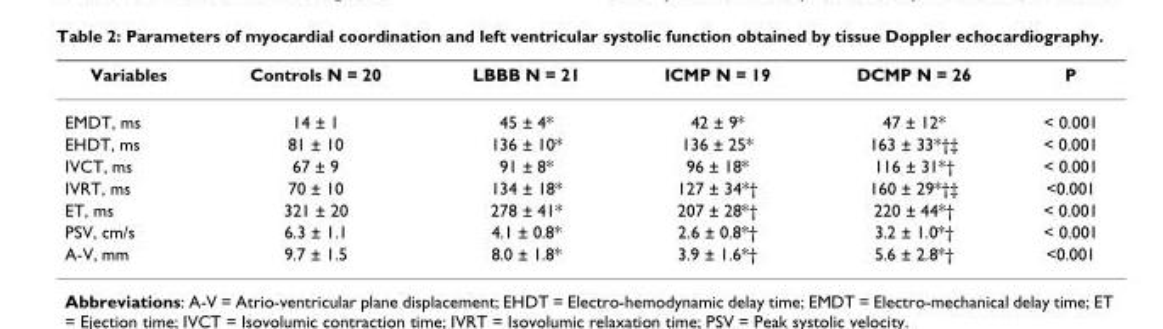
<table><thead><tr><td>Variables</td><td>Controls N = 20</td><td>LBBB N = 21</td><td>ICMP N = 19</td><td>DCMP N = 26</td><td>P</td></tr></thead><tbody><tr><td>EMDT, ms</td><td>14 ± 1</td><td>45 ± 4*</td><td>42 ± 9*</td><td>47 ± 12*</td><td>&lt; 0.001</td></tr><tr><td>EHDT, ms</td><td>81 ± 10</td><td>136 ± 10*</td><td>136 ± 25*</td><td>163 ± 33*†‡</td><td>&lt; 0.001</td></tr><tr><td>IVCT, ms</td><td>67 ± 9</td><td>91 ± 8*</td><td>96 ± 18*</td><td>116 ± 31*†</td><td>&lt; 0.001</td></tr><tr><td>IVRT, ms</td><td>70 ± 10</td><td>134 ± 18*</td><td>127 ± 34*†</td><td>160 ± 29*†‡</td><td>&lt;0.001</td></tr><tr><td>ET, ms</td><td>321 ± 20</td><td>278 ± 41*</td><td>207 ± 28*†</td><td>220 ± 44*†</td><td>&lt; 0.001</td></tr><tr><td>PSV, cm/s</td><td>6.3 ± 1.1</td><td>4.1 ± 0.8*</td><td>2.6 ± 0.8*†</td><td>3.2 ± 1.0*†</td><td>&lt; 0.001</td></tr><tr><td>A-V, mm</td><td>9.7 ± 1.5</td><td>8.0 ± 1.8*</td><td>3.9 ± 1.6*†</td><td>5.6 ± 2.8*†</td><td>&lt;0.001</td></tr></tbody></table>